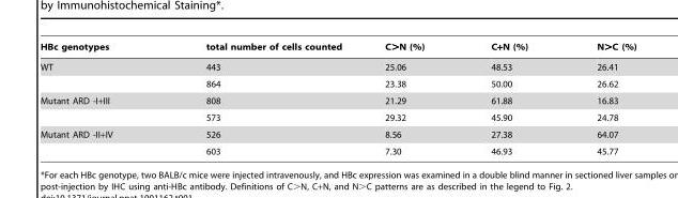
<table><thead><tr><td>HBc genotypes</td><td>total number of cells counted</td><td>C&gt;N (%)</td><td>C+N (%)</td><td>N&gt;C (%)</td></tr></thead><tbody><tr><td rowspan="2">WT</td><td>443</td><td>25.06</td><td>48.53</td><td>26.41</td></tr><tr><td>864</td><td>23.38</td><td>50.00</td><td>26.62</td></tr><tr><td rowspan="2">Mutant ARD -I+III</td><td>808</td><td>21.29</td><td>61.88</td><td>16.83</td></tr><tr><td>573</td><td>29.32</td><td>45.90</td><td>24.78</td></tr><tr><td rowspan="2">Mutant ARD -II+IV</td><td>526</td><td>8.56</td><td>27.38</td><td>64.07</td></tr><tr><td>603</td><td>7.30</td><td>46.93</td><td>45.77</td></tr></tbody></table>